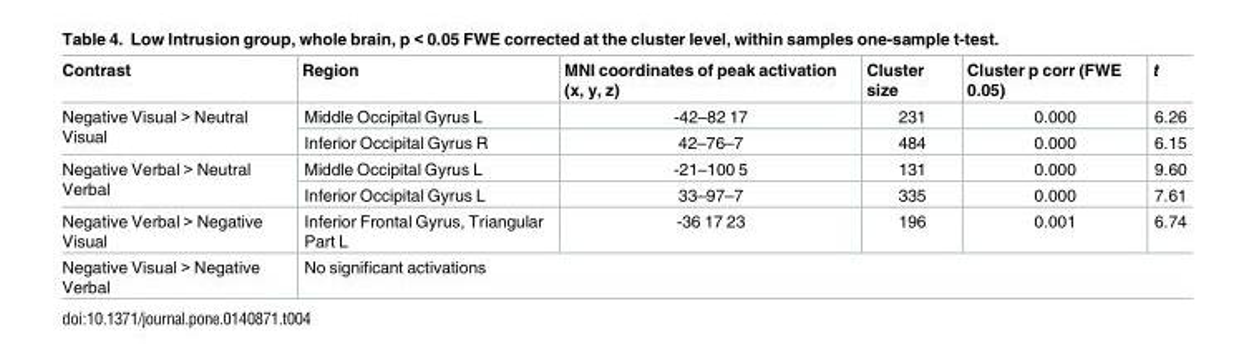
<table><thead><tr><td>Contrast</td><td>Region</td><td>MNI coordinates of peak activation (x, y, z)</td><td>Cluster size</td><td>Cluster p corr (FWE 0.05)</td><td>t</td></tr></thead><tbody><tr><td rowspan="2">Negative Visual &gt; Neutral Visual</td><td>Middle Occipital Gyrus L</td><td>-42–82 17</td><td>231</td><td>0.000</td><td>6.26</td></tr><tr><td>Inferior Occipital Gyrus R</td><td>42–76–7</td><td>484</td><td>0.000</td><td>6.15</td></tr><tr><td rowspan="2">Negative Verbal &gt; Neutral Verbal</td><td>Middle Occipital Gyrus L</td><td>-21–100 5</td><td>131</td><td>0.000</td><td>9.60</td></tr><tr><td>Inferior Occipital Gyrus L</td><td>33–97–7</td><td>335</td><td>0.000</td><td>7.61</td></tr><tr><td>Negative Verbal &gt; Negative Visual</td><td>Inferior Frontal Gyrus, Triangular Part L</td><td>-36 17 23</td><td>196</td><td>0.001</td><td>6.74</td></tr><tr><td>Negative Visual &gt; Negative Verbal</td><td colspan="5">No significant activations</td></tr></tbody></table>